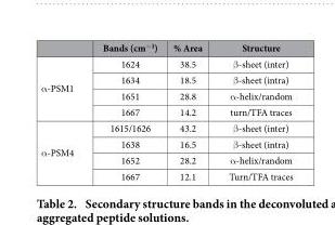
<table><thead><tr><td></td><td>Bands (cm<sup>−1</sup>)</td><td>% Area</td><td>Structure</td></tr></thead><tbody><tr><td rowspan="4">α -PSM1</td><td>1624</td><td>38.5</td><td>β -sheet (inter)</td></tr><tr><td>1634</td><td>18.5</td><td>β -sheet (intra)</td></tr><tr><td>1651</td><td>28.8</td><td>α -helix/random</td></tr><tr><td>1667</td><td>14.2</td><td>turn/TFA traces</td></tr><tr><td rowspan="4">α -PSM4</td><td>1615/1626</td><td>43.2</td><td>β -sheet (inter)</td></tr><tr><td>1638</td><td>16.5</td><td>β -sheet (intra)</td></tr><tr><td>1652</td><td>28.2</td><td>α -helix/random</td></tr><tr><td>1667</td><td>12.1</td><td>Turn/TFA traces</td></tr></tbody></table>